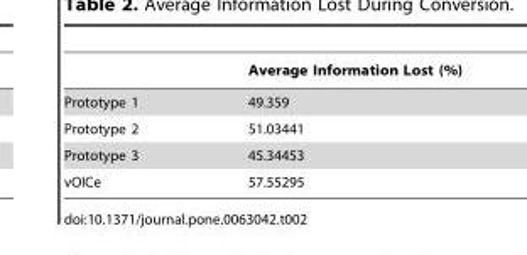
<table><thead><tr><td></td><td>Average Information Lost (%)</td></tr></thead><tbody><tr><td>Prototype 1</td><td>49.359</td></tr><tr><td>Prototype 2</td><td>51.03441</td></tr><tr><td>Prototype 3</td><td>45.34453</td></tr><tr><td>vOICe</td><td>57.55295</td></tr></tbody></table>